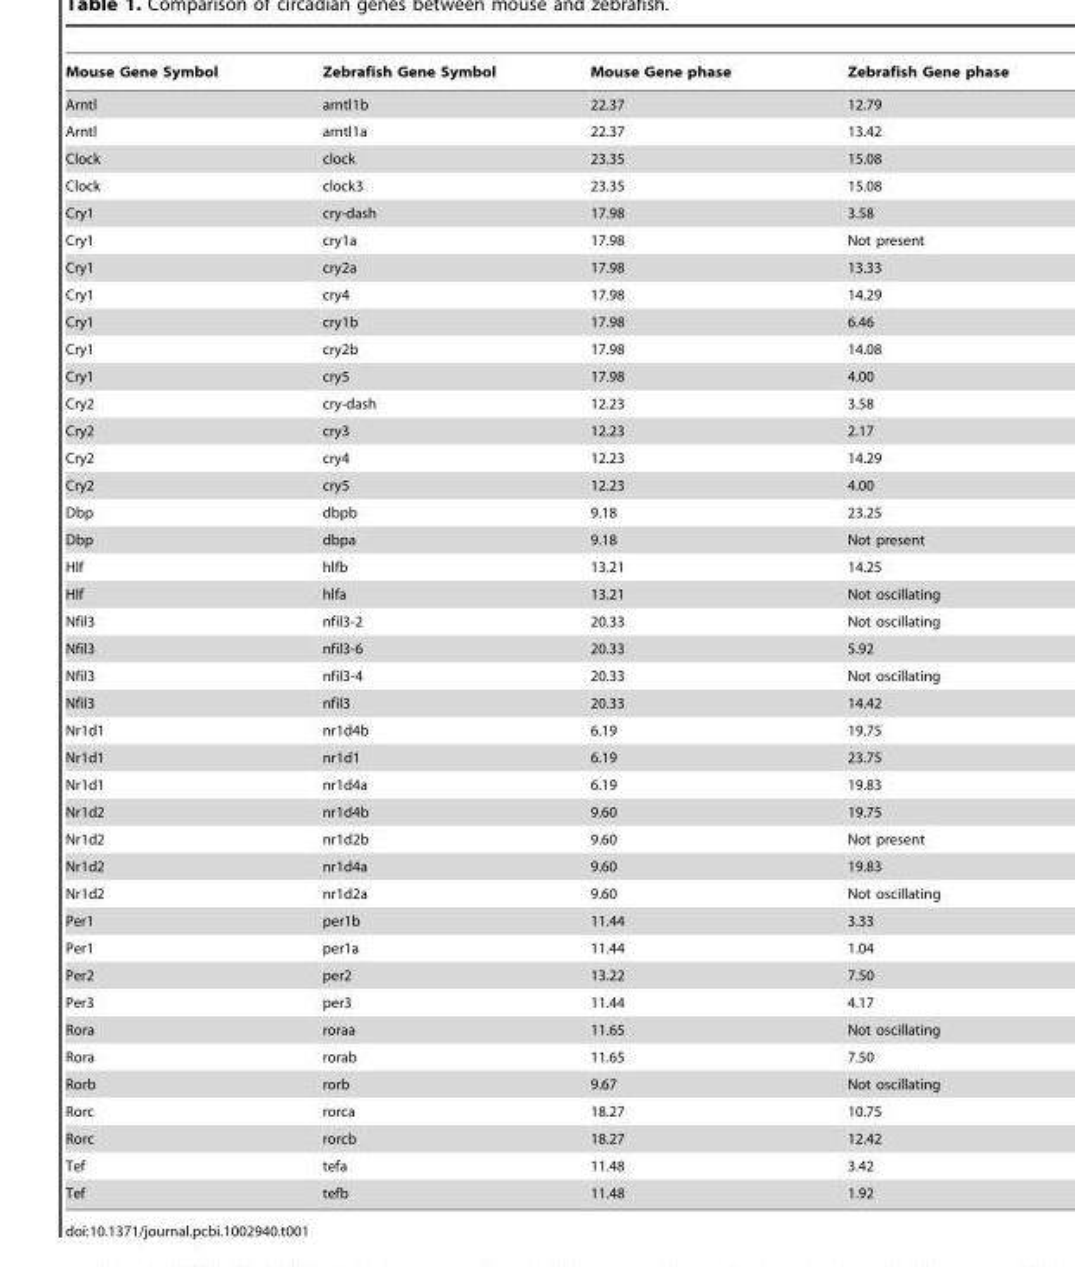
<table><thead><tr><td>Mouse Gene Symbol</td><td>Zebrafish Gene Symbol</td><td>Mouse Gene phase</td><td>Zebrafish Gene phase</td></tr></thead><tbody><tr><td>Arntl</td><td>arntl1b</td><td>22.37</td><td>12.79</td></tr><tr><td>Arntl</td><td>arntl1a</td><td>22.37</td><td>13.42</td></tr><tr><td>Clock</td><td>clock</td><td>23.35</td><td>15.08</td></tr><tr><td>Clock</td><td>clock3</td><td>23.35</td><td>15.08</td></tr><tr><td>Cry1</td><td>cry-dash</td><td>17.98</td><td>3.58</td></tr><tr><td>Cry1</td><td>cry1a</td><td>17.98</td><td>Not present</td></tr><tr><td>Cry1</td><td>cry2a</td><td>17.98</td><td>13.33</td></tr><tr><td>Cry1</td><td>cry4</td><td>17.98</td><td>14.29</td></tr><tr><td>Cry1</td><td>cry1b</td><td>17.98</td><td>6.46</td></tr><tr><td>Cry1</td><td>cry2b</td><td>17.98</td><td>14.08</td></tr><tr><td>Cry1</td><td>cry5</td><td>17.98</td><td>4.00</td></tr><tr><td>Cry2</td><td>cry-dash</td><td>12.23</td><td>3.58</td></tr><tr><td>Cry2</td><td>cry3</td><td>12.23</td><td>2.17</td></tr><tr><td>Cry2</td><td>cry4</td><td>12.23</td><td>14.29</td></tr><tr><td>Cry2</td><td>cry5</td><td>12.23</td><td>4.00</td></tr><tr><td>Dbp</td><td>dbpb</td><td>9.18</td><td>23.25</td></tr><tr><td>Dbp</td><td>dbpa</td><td>9.18</td><td>Not present</td></tr><tr><td>Hlf</td><td>hlfb</td><td>13.21</td><td>14.25</td></tr><tr><td>Hlf</td><td>hlfa</td><td>13.21</td><td>Not oscillating</td></tr><tr><td>Nfil3</td><td>nfil3-2</td><td>20.33</td><td>Not oscillating</td></tr><tr><td>Nfil3</td><td>nfil3-6</td><td>20.33</td><td>5.92</td></tr><tr><td>Nfil3</td><td>nfil3-4</td><td>20.33</td><td>Not oscillating</td></tr><tr><td>Nfil3</td><td>nfil3</td><td>20.33</td><td>14.42</td></tr><tr><td>Nr1d1</td><td>nr1d4b</td><td>6.19</td><td>19.75</td></tr><tr><td>Nr1d1</td><td>nr1d1</td><td>6.19</td><td>23.75</td></tr><tr><td>Nr1d1</td><td>nr1d4a</td><td>6.19</td><td>19.83</td></tr><tr><td>Nr1d2</td><td>nr1d4b</td><td>9.60</td><td>19.75</td></tr><tr><td>Nr1d2</td><td>nr1d2b</td><td>9.60</td><td>Not present</td></tr><tr><td>Nr1d2</td><td>nr1d4a</td><td>9.60</td><td>19.83</td></tr><tr><td>Nr1d2</td><td>nr1d2a</td><td>9.60</td><td>Not oscillating</td></tr><tr><td>Per1</td><td>per1b</td><td>11.44</td><td>3.33</td></tr><tr><td>Per1</td><td>per1a</td><td>11.44</td><td>1.04</td></tr><tr><td>Per2</td><td>per2</td><td>13.22</td><td>7.50</td></tr><tr><td>Per3</td><td>per3</td><td>11.44</td><td>4.17</td></tr><tr><td>Rora</td><td>roraa</td><td>11.65</td><td>Not oscillating</td></tr><tr><td>Rora</td><td>rorab</td><td>11.65</td><td>7.50</td></tr><tr><td>Rorb</td><td>rorb</td><td>9.67</td><td>Not oscillating</td></tr><tr><td>Rorc</td><td>rorca</td><td>18.27</td><td>10.75</td></tr><tr><td>Rorc</td><td>rorcb</td><td>18.27</td><td>12.42</td></tr><tr><td>Tef</td><td>tefa</td><td>11.48</td><td>3.42</td></tr><tr><td>Tef</td><td>tefb</td><td>11.48</td><td>1.92</td></tr></tbody></table>